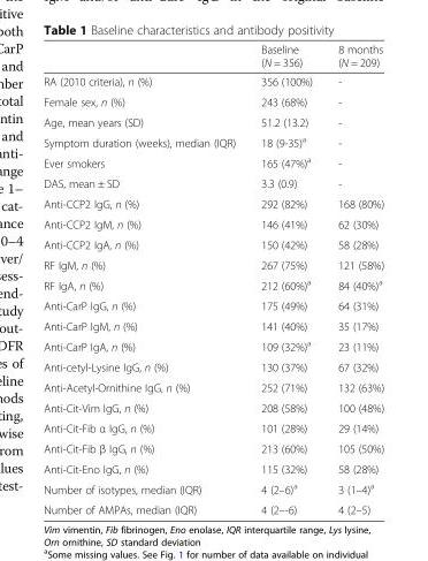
<table><thead><tr><td></td><td>Baseline (N = 356)</td><td>8 months (N = 209)</td></tr></thead><tbody><tr><td>RA (2010 criteria), n (%)</td><td>356 (100%)</td><td>-</td></tr><tr><td>Female sex, n (%)</td><td>243 (68%)</td><td>-</td></tr><tr><td>Age, mean years (SD)</td><td>51.2 (13.2)</td><td>-</td></tr><tr><td>Symptom duration (weeks), median (IQR)</td><td>18 (9-35)<sup>a</sup></td><td>-</td></tr><tr><td>Ever smokers</td><td>165 (47%)<sup>a</sup></td><td>-</td></tr><tr><td>DAS, mean ± SD</td><td>3.3 (0.9)</td><td>-</td></tr><tr><td>Anti-CCP2 IgG, n (%)</td><td>292 (82%)</td><td>168 (80%)</td></tr><tr><td>Anti-CCP2 IgM, n (%)</td><td>146 (41%)</td><td>62 (30%)</td></tr><tr><td>Anti-CCP2 IgA, n (%)</td><td>150 (42%)</td><td>58 (28%)</td></tr><tr><td>RF IgM, n (%)</td><td>267 (75%)</td><td>121 (58%)</td></tr><tr><td>RF IgA, n (%)</td><td>212 (60%)<sup>a</sup></td><td>84 (40%)<sup>a</sup></td></tr><tr><td>Anti-CarP IgG, n (%)</td><td>175 (49%)</td><td>64 (31%)</td></tr><tr><td>Anti-CarP IgM, n (%)</td><td>141 (40%)</td><td>35 (17%)</td></tr><tr><td>Anti-CarP IgA, n (%)</td><td>109 (32%)<sup>a</sup></td><td>23 (11%)</td></tr><tr><td>Anti-cetyl-Lysine IgG, n (%)</td><td>130 (37%)</td><td>67 (32%)</td></tr><tr><td>Anti-Acetyl-Ornithine IgG, n (%)</td><td>252 (71%)</td><td>132 (63%)</td></tr><tr><td>Anti-Cit-Vim IgG, n (%)</td><td>208 (58%)</td><td>100 (48%)</td></tr><tr><td>Anti-Cit-Fib α IgG, n (%)</td><td>101 (28%)</td><td>29 (14%)</td></tr><tr><td>Anti-Cit-Fib β IgG, n (%)</td><td>213 (60%)</td><td>105 (50%)</td></tr><tr><td>Anti-Cit-Eno IgG, n (%)</td><td>115 (32%)</td><td>58 (28%)</td></tr><tr><td>Number of isotypes, median (IQR)</td><td>4 (2–6)<sup>a</sup></td><td>3 (1–4)<sup>a</sup></td></tr><tr><td>Number of AMPAs, median (IQR)</td><td>4 (2–-6)</td><td>4 (2–5)</td></tr></tbody></table>